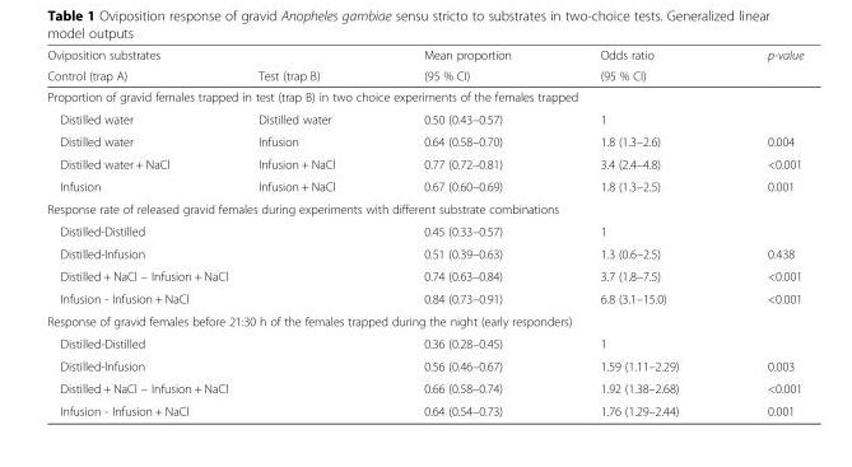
<table><thead><tr><td rowspan="2">Oviposition substrates Control (trap A)</td><td rowspan="2">Test (trap B)</td><td rowspan="2">Mean proportion (95 % CI)</td><td rowspan="2">Odds ratio (95 % CI)</td><td rowspan="2">p-value</td></tr><tr></tr></thead><tbody><tr><td colspan="5">Proportion of gravid females trapped in test (trap B) in two choice experiments of the females trapped</td></tr><tr><td>Distilled water</td><td>Distilled water</td><td>0.50 (0.43–0.57)</td><td>1</td><td></td></tr><tr><td>Distilled water</td><td>Infusion</td><td>0.64 (0.58–0.70)</td><td>1.8 (1.3–2.6)</td><td>0.004</td></tr><tr><td>Distilled water + NaCl</td><td>Infusion + NaCl</td><td>0.77 (0.72–0.81)</td><td>3.4 (2.4–4.8)</td><td>&lt;0.001</td></tr><tr><td>Infusion</td><td>Infusion + NaCl</td><td>0.67 (0.60–0.69)</td><td>1.8 (1.3–2.5)</td><td>0.001</td></tr><tr><td colspan="5">Response rate of released gravid females during experiments with different substrate combinations</td></tr><tr><td colspan="2">Distilled-Distilled</td><td>0.45 (0.33–0.57)</td><td>1</td><td></td></tr><tr><td colspan="2">Distilled-Infusion</td><td>0.51 (0.39–0.63)</td><td>1.3 (0.6–2.5)</td><td>0.438</td></tr><tr><td colspan="2">Distilled + NaCl – Infusion + NaCl</td><td>0.74 (0.63–0.84)</td><td>3.7 (1.8–7.5)</td><td>&lt;0.001</td></tr><tr><td colspan="2">Infusion - Infusion + NaCl</td><td>0.84 (0.73–0.91)</td><td>6.8 (3.1–15.0)</td><td>&lt;0.001</td></tr><tr><td colspan="5">Response of gravid females before 21:30 h of the females trapped during the night (early responders)</td></tr><tr><td colspan="2">Distilled-Distilled</td><td>0.36 (0.28–0.45)</td><td>1</td><td></td></tr><tr><td colspan="2">Distilled-Infusion</td><td>0.56 (0.46–0.67)</td><td>1.59 (1.11–2.29)</td><td>0.003</td></tr><tr><td colspan="2">Distilled + NaCl – Infusion + NaCl</td><td>0.66 (0.58–0.74)</td><td>1.92 (1.38–2.68)</td><td>&lt;0.001</td></tr><tr><td colspan="2">Infusion - Infusion + NaCl</td><td>0.64 (0.54–0.73)</td><td>1.76 (1.29–2.44)</td><td>0.001</td></tr></tbody></table>